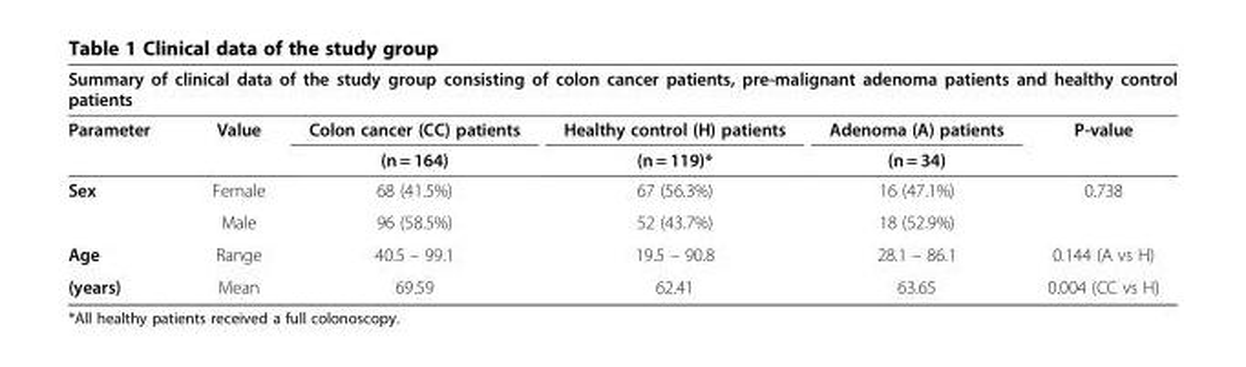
<table><thead><tr><td colspan="6">Summary of clinical data of the study group consisting of colon cancer patients, pre-malignant adenoma patients and healthy control patients</td></tr><tr><td rowspan="2">Parameter</td><td rowspan="2">Value</td><td rowspan="2">Colon cancer (CC) patients (n = 164)</td><td rowspan="2">Healthy control (H) patients (n = 119)*</td><td rowspan="2">Adenoma (A) patients (n = 34)</td><td rowspan="2">P-value</td></tr><tr></tr></thead><tbody><tr><td rowspan="2">Sex</td><td>Female</td><td>68 (41.5%)</td><td>67 (56.3%)</td><td>16 (47.1%)</td><td>0.738</td></tr><tr><td>Male</td><td>96 (58.5%)</td><td>52 (43.7%)</td><td>18 (52.9%)</td><td></td></tr><tr><td>Age</td><td>Range</td><td>40.5 – 99.1</td><td>19.5 – 90.8</td><td>28.1 – 86.1</td><td>0.144 (A vs H)</td></tr><tr><td>(years)</td><td>Mean</td><td>69.59</td><td>62.41</td><td>63.65</td><td>0.004 (CC vs H)</td></tr></tbody></table>